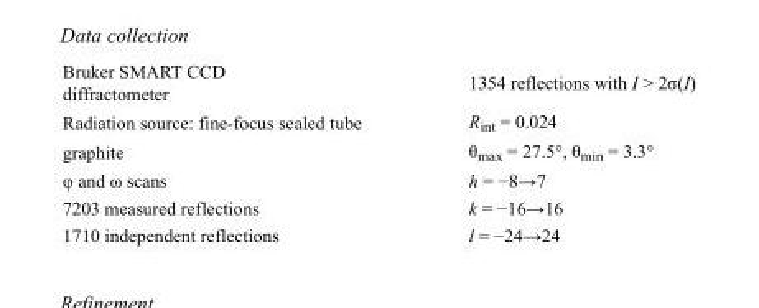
<table><tbody><tr><td>Bruker SMART CCD diffractometer</td><td>1354 reflections with I &gt; 2σ(I)</td></tr><tr><td>Radiation source: fine-focus sealed tube</td><td>R<sub>int</sub> = 0.024</td></tr><tr><td>graphite</td><td>θ<sub>max</sub> = 27.5°, θ<sub>min</sub> = 3.3°</td></tr><tr><td>φ and ω scans</td><td>h = −8→7</td></tr><tr><td>7203 measured reflections</td><td>k = −16→16</td></tr><tr><td>1710 independent reflections</td><td>l = −24→24</td></tr></tbody></table>